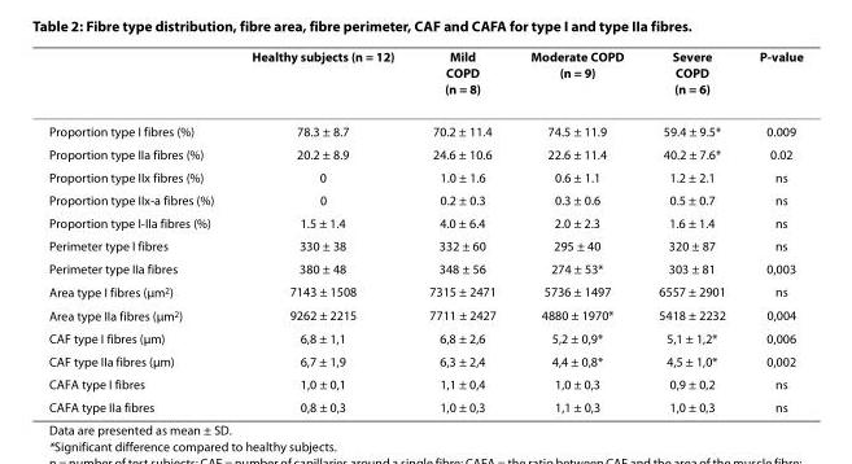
<table><thead><tr><td></td><td>Healthy subjects (n = 12)</td><td>Mild COPD (n = 8)</td><td>Moderate COPD (n = 9)</td><td>Severe COPD (n = 6)</td><td>P-value</td></tr></thead><tbody><tr><td>Proportion type I fibres (%)</td><td>78.3 ± 8.7</td><td>70.2 ± 11.4</td><td>74.5 ± 11.9</td><td>59.4 ± 9.5*</td><td>0.009</td></tr><tr><td>Proportion type IIa fibres (%)</td><td>20.2 ± 8.9</td><td>24.6 ± 10.6</td><td>22.6 ± 11.4</td><td>40.2 ± 7.6*</td><td>0.02</td></tr><tr><td>Proportion type IIx fibres (%)</td><td>0</td><td>1.0 ± 1.6</td><td>0.6 ± 1.1</td><td>1.2 ± 2.1</td><td>ns</td></tr><tr><td>Proportion type IIx-a fibres (%)</td><td>0</td><td>0.2 ± 0.3</td><td>0.3 ± 0.6</td><td>0.5 ± 0.7</td><td>ns</td></tr><tr><td>Proportion type I-IIa fibres (%)</td><td>1.5 ± 1.4</td><td>4.0 ± 6.4</td><td>2.0 ± 2.3</td><td>1.6 ± 1.4</td><td>ns</td></tr><tr><td>Perimeter type I fibres</td><td>330 ± 38</td><td>332 ± 60</td><td>295 ± 40</td><td>320 ± 87</td><td>ns</td></tr><tr><td>Perimeter type IIa fibres</td><td>380 ± 48</td><td>348 ± 56</td><td>274 ± 53*</td><td>303 ± 81</td><td>0,003</td></tr><tr><td>Area type I fibres (μm<sup>2</sup>)</td><td>7143 ± 1508</td><td>7315 ± 2471</td><td>5736 ± 1497</td><td>6557 ± 2901</td><td>ns</td></tr><tr><td>Area type IIa fibres (μm<sup>2</sup>)</td><td>9262 ± 2215</td><td>7711 ± 2427</td><td>4880 ± 1970*</td><td>5418 ± 2232</td><td>0,004</td></tr><tr><td>CAF type I fibres (μm)</td><td>6,8 ± 1,1</td><td>6,8 ± 2,6</td><td>5,2 ± 0,9*</td><td>5,1 ± 1,2*</td><td>0,006</td></tr><tr><td>CAF type IIa fibres (μm)</td><td>6,7 ± 1,9</td><td>6,3 ± 2,4</td><td>4,4 ± 0,8*</td><td>4,5 ± 1,0*</td><td>0,002</td></tr><tr><td>CAFA type I fibres</td><td>1,0 ± 0,1</td><td>1,1 ± 0,4</td><td>1,0 ± 0,3</td><td>0,9 ± 0,2</td><td>ns</td></tr><tr><td>CAFA type IIa fibres</td><td>0,8 ± 0,3</td><td>1,0 ± 0,3</td><td>1,1 ± 0,3</td><td>1,0 ± 0,3</td><td>ns</td></tr></tbody></table>